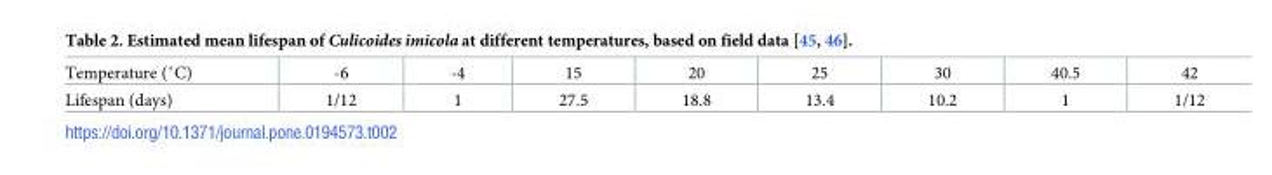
<table><tbody><tr><td>Temperature (˚C)</td><td>-6</td><td>-4</td><td>15</td><td>20</td><td>25</td><td>30</td><td>40.5</td><td>42</td></tr><tr><td>Lifespan (days)</td><td>1/12</td><td>1</td><td>27.5</td><td>18.8</td><td>13.4</td><td>10.2</td><td>1</td><td>1/12</td></tr></tbody></table>